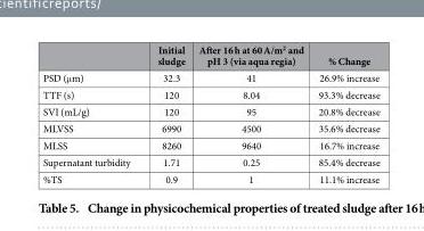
<table><thead><tr><td></td><td>Initial sludge</td><td>After 16 h at 60 A/m<sup>2</sup> and pH 3 (via aqua regia)</td><td>% Change</td></tr></thead><tbody><tr><td>PSD (μ m)</td><td>32.3</td><td>41</td><td>26.9% increase</td></tr><tr><td>TTF (s)</td><td>120</td><td>8.04</td><td>93.3% decrease</td></tr><tr><td>SVI (mL/g)</td><td>120</td><td>95</td><td>20.8% decrease</td></tr><tr><td>MLVSS</td><td>6990</td><td>4500</td><td>35.6% decrease</td></tr><tr><td>MLSS</td><td>8260</td><td>9640</td><td>16.7% increase</td></tr><tr><td>Supernatant turbidity</td><td>1.71</td><td>0.25</td><td>85.4% decrease</td></tr><tr><td>%TS</td><td>0.9</td><td>1</td><td>11.1% increase</td></tr></tbody></table>